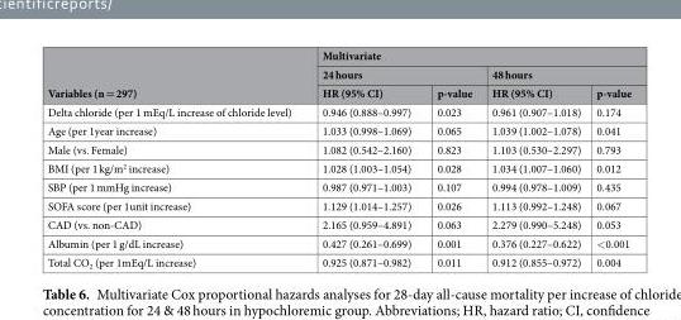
<table><thead><tr><td rowspan="3">Variables (n = 297)</td><td colspan="4">Multivariate</td></tr><tr><td colspan="2">24 hours</td><td colspan="2">48 hours</td></tr><tr><td>HR (95% CI)</td><td>p-value</td><td>HR (95% CI)</td><td>p-value</td></tr></thead><tbody><tr><td>Delta chloride (per 1 mEq/L increase of chloride level)</td><td>0.946 (0.888–0.997)</td><td>0.023</td><td>0.961 (0.907–1.018)</td><td>0.174</td></tr><tr><td>Age (per 1year increase)</td><td>1.033 (0.998–1.069)</td><td>0.065</td><td>1.039 (1.002–1.078)</td><td>0.041</td></tr><tr><td>Male (vs. Female)</td><td>1.082 (0.542–2.160)</td><td>0.823</td><td>1.103 (0.530–2.297)</td><td>0.793</td></tr><tr><td>BMI (per 1 kg/m<sup>2</sup> increase)</td><td>1.028 (1.003–1.054)</td><td>0.028</td><td>1.034 (1.007–1.060)</td><td>0.012</td></tr><tr><td>SBP (per 1 mmHg increase)</td><td>0.987 (0.971–1.003)</td><td>0.107</td><td>0.994 (0.978–1.009)</td><td>0.435</td></tr><tr><td>SOFA score (per 1unit increase)</td><td>1.129 (1.014–1.257)</td><td>0.026</td><td>1.113 (0.992–1.248)</td><td>0.067</td></tr><tr><td>CAD (vs. non-CAD)</td><td>2.165 (0.959–4.891)</td><td>0.063</td><td>2.279 (0.990–5.248)</td><td>0.053</td></tr><tr><td>Albumin (per 1 g/dL increase)</td><td>0.427 (0.261–0.699)</td><td>0.001</td><td>0.376 (0.227–0.622)</td><td>&lt;0.001</td></tr><tr><td>Total CO<sub>2</sub> (per 1mEq/L increase)</td><td>0.925 (0.871–0.982)</td><td>0.011</td><td>0.912 (0.855–0.972)</td><td>0.004</td></tr></tbody></table>